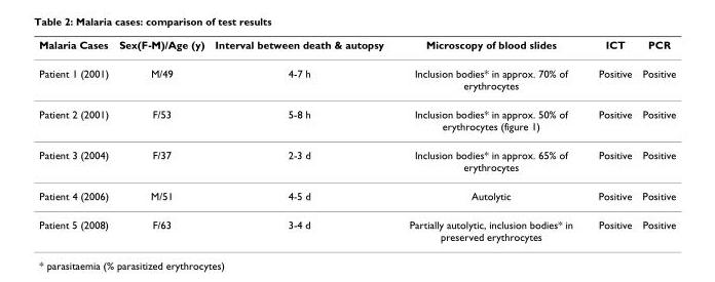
<table><thead><tr><td>Malaria Cases</td><td>Sex(F-M)/Age (y)</td><td>Interval between death &amp; autopsy</td><td>Microscopy of blood slides</td><td>ICT</td><td>PCR</td></tr></thead><tbody><tr><td>Patient 1 (2001)</td><td>M/49</td><td>4-7 h</td><td>Inclusion bodies* in approx. 70% of erythrocytes</td><td>Positive</td><td>Positive</td></tr><tr><td>Patient 2 (2001)</td><td>F/53</td><td>5-8 h</td><td>Inclusion bodies* in approx. 50% of erythrocytes (figure 1)</td><td>Positive</td><td>Positive</td></tr><tr><td>Patient 3 (2004)</td><td>F/37</td><td>2-3 d</td><td>Inclusion bodies* in approx. 65% of erythrocytes</td><td>Positive</td><td>Positive</td></tr><tr><td>Patient 4 (2006)</td><td>M/51</td><td>4-5 d</td><td>Autolytic</td><td>Positive</td><td>Positive</td></tr><tr><td>Patient 5 (2008)</td><td>F/63</td><td>3-4 d</td><td>Partially autolytic, inclusion bodies* in preserved erythrocytes</td><td>Positive</td><td>Positive</td></tr></tbody></table>